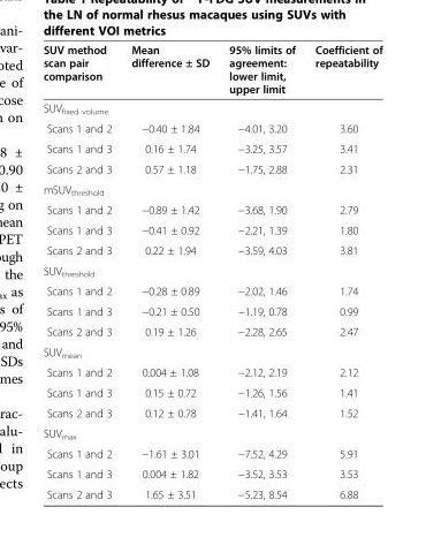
<table><thead><tr><td>SUV method scan pair comparison</td><td>Mean difference ± SD</td><td>95% limits of agreement: lower limit, upper limit</td><td>Coefficient of repeatability</td></tr></thead><tbody><tr><td colspan="4">SUV<sub>fixed volume</sub></td></tr><tr><td>Scans 1 and 2</td><td>−0.40 ± 1.84</td><td>−4.01, 3.20</td><td>3.60</td></tr><tr><td>Scans 1 and 3</td><td>0.16 ± 1.74</td><td>−3.25, 3.57</td><td>3.41</td></tr><tr><td>Scans 2 and 3</td><td>0.57 ± 1.18</td><td>−1.75, 2.88</td><td>2.31</td></tr><tr><td colspan="4">mSUV<sub>threshold</sub></td></tr><tr><td>Scans 1 and 2</td><td>−0.89 ± 1.42</td><td>−3.68, 1.90</td><td>2.79</td></tr><tr><td>Scans 1 and 3</td><td>−0.41 ± 0.92</td><td>−2.21, 1.39</td><td>1.80</td></tr><tr><td>Scans 2 and 3</td><td>0.22 ± 1.94</td><td>−3.59, 4.03</td><td>3.81</td></tr><tr><td colspan="4">SUV<sub>threshold</sub></td></tr><tr><td>Scans 1 and 2</td><td>−0.28 ± 0.89</td><td>−2.02, 1.46</td><td>1.74</td></tr><tr><td>Scans 1 and 3</td><td>−0.21 ± 0.50</td><td>−1.19, 0.78</td><td>0.99</td></tr><tr><td>Scans 2 and 3</td><td>0.19 ± 1.26</td><td>−2.28, 2.65</td><td>2.47</td></tr><tr><td colspan="4">SUV<sub>mean</sub></td></tr><tr><td>Scans 1 and 2</td><td>0.004 ± 1.08</td><td>−2.12, 2.19</td><td>2.12</td></tr><tr><td>Scans 1 and 3</td><td>0.15 ± 0.72</td><td>−1.26, 1.56</td><td>1.41</td></tr><tr><td>Scans 2 and 3</td><td>0.12 ± 0.78</td><td>−1.41, 1.64</td><td>1.52</td></tr><tr><td colspan="4">SUV<sub>max</sub></td></tr><tr><td>Scans 1 and 2</td><td>−1.61 ± 3.01</td><td>−7.52, 4.29</td><td>5.91</td></tr><tr><td>Scans 1 and 3</td><td>0.004 ± 1.82</td><td>−3.52, 3.53</td><td>3.53</td></tr><tr><td>Scans 2 and 3</td><td>1.65 ± 3.51</td><td>−5.23, 8.54</td><td>6.88</td></tr></tbody></table>